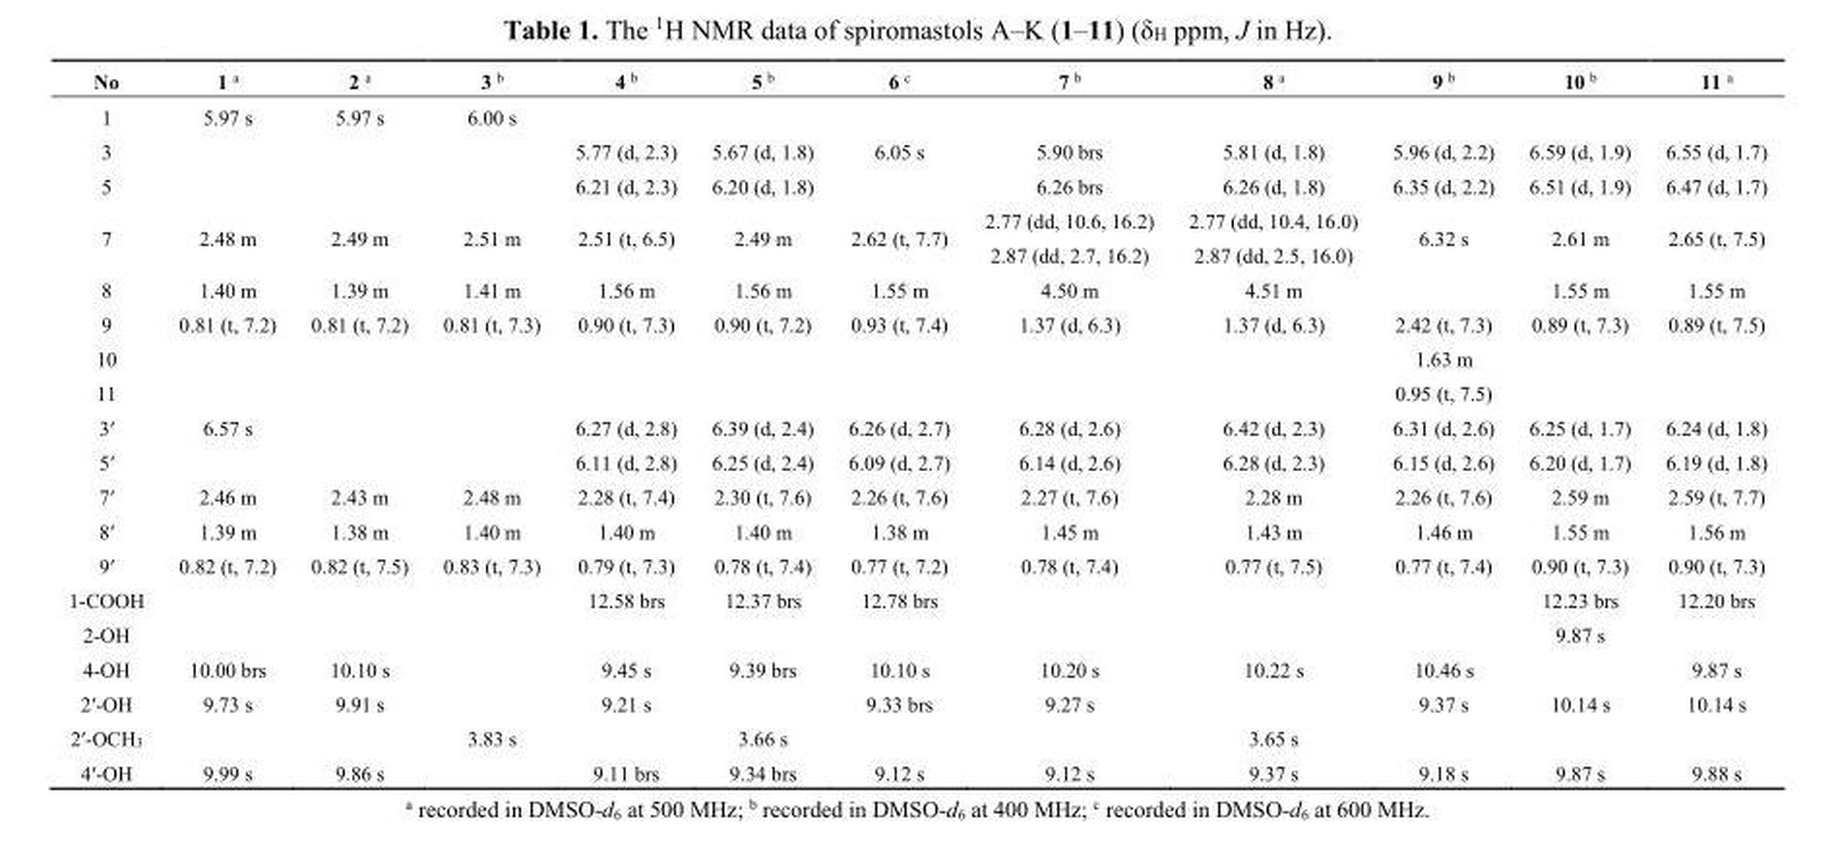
<table><thead><tr><td>No</td><td>1 <sup>a</sup></td><td>2 <sup>a</sup></td><td>3 <sup>b</sup></td><td>4 <sup>b</sup></td><td>5 <sup>b</sup></td><td>6 <sup>c</sup></td><td>7 <sup>b</sup></td><td>8 <sup>a</sup></td><td>9 <sup>b</sup></td><td>10 <sup>b</sup></td><td>11 <sup>a</sup></td></tr></thead><tbody><tr><td>1</td><td>5.97 s</td><td>5.97 s</td><td>6.00 s</td><td></td><td></td><td></td><td></td><td></td><td></td><td></td><td></td></tr><tr><td>3</td><td></td><td></td><td></td><td>5.77 (d, 2.3)</td><td>5.67 (d, 1.8)</td><td>6.05 s</td><td>5.90 brs</td><td>5.81 (d, 1.8)</td><td>5.96 (d, 2.2)</td><td>6.59 (d, 1.9)</td><td>6.55 (d, 1.7)</td></tr><tr><td>5</td><td></td><td></td><td></td><td>6.21 (d, 2.3)</td><td>6.20 (d, 1.8)</td><td></td><td>6.26 brs</td><td>6.26 (d, 1.8)</td><td>6.35 (d, 2.2)</td><td>6.51 (d, 1.9)</td><td>6.47 (d, 1.7)</td></tr><tr><td>7</td><td>2.48 m</td><td>2.49 m</td><td>2.51 m</td><td>2.51 (t, 6.5)</td><td>2.49 m</td><td>2.62 (t, 7.7)</td><td>2.77 (dd, 10.6, 16.2) 2.87 (dd, 2.7, 16.2)</td><td>2.77 (dd, 10.4, 16.0) 2.87 (dd, 2.5, 16.0)</td><td>6.32 s</td><td>2.61 m</td><td>2.65 (t, 7.5)</td></tr><tr><td>8</td><td>1.40 m</td><td>1.39 m</td><td>1.41 m</td><td>1.56 m</td><td>1.56 m</td><td>1.55 m</td><td>4.50 m</td><td>4.51 m</td><td></td><td>1.55 m</td><td>1.55 m</td></tr><tr><td>9</td><td>0.81 (t, 7.2)</td><td>0.81 (t, 7.2)</td><td>0.81 (t, 7.3)</td><td>0.90 (t, 7.3)</td><td>0.90 (t, 7.2)</td><td>0.93 (t, 7.4)</td><td>1.37 (d, 6.3)</td><td>1.37 (d, 6.3)</td><td>2.42 (t, 7.3)</td><td>0.89 (t, 7.3)</td><td>0.89 (t, 7.5)</td></tr><tr><td>10</td><td></td><td></td><td></td><td></td><td></td><td></td><td></td><td></td><td>1.63 m</td><td></td><td></td></tr><tr><td>11</td><td></td><td></td><td></td><td></td><td></td><td></td><td></td><td></td><td>0.95 (t, 7.5)</td><td></td><td></td></tr><tr><td>3′</td><td>6.57 s</td><td></td><td></td><td>6.27 (d, 2.8)</td><td>6.39 (d, 2.4)</td><td>6.26 (d, 2.7)</td><td>6.28 (d, 2.6)</td><td>6.42 (d, 2.3)</td><td>6.31 (d, 2.6)</td><td>6.25 (d, 1.7)</td><td>6.24 (d, 1.8)</td></tr><tr><td>5′</td><td></td><td></td><td></td><td>6.11 (d, 2.8)</td><td>6.25 (d, 2.4)</td><td>6.09 (d, 2.7)</td><td>6.14 (d, 2.6)</td><td>6.28 (d, 2.3)</td><td>6.15 (d, 2.6)</td><td>6.20 (d, 1.7)</td><td>6.19 (d, 1.8)</td></tr><tr><td>7′</td><td>2.46 m</td><td>2.43 m</td><td>2.48 m</td><td>2.28 (t, 7.4)</td><td>2.30 (t, 7.6)</td><td>2.26 (t, 7.6)</td><td>2.27 (t, 7.6)</td><td>2.28 m</td><td>2.26 (t, 7.6)</td><td>2.59 m</td><td>2.59 (t, 7.7)</td></tr><tr><td>8′</td><td>1.39 m</td><td>1.38 m</td><td>1.40 m</td><td>1.40 m</td><td>1.40 m</td><td>1.38 m</td><td>1.45 m</td><td>1.43 m</td><td>1.46 m</td><td>1.55 m</td><td>1.56 m</td></tr><tr><td>9′</td><td>0.82 (t, 7.2)</td><td>0.82 (t, 7.5)</td><td>0.83 (t, 7.3)</td><td>0.79 (t, 7.3)</td><td>0.78 (t, 7.4)</td><td>0.77 (t, 7.2)</td><td>0.78 (t, 7.4)</td><td>0.77 (t, 7.5)</td><td>0.77 (t, 7.4)</td><td>0.90 (t, 7.3)</td><td>0.90 (t, 7.3)</td></tr><tr><td>1-COOH</td><td></td><td></td><td></td><td>12.58 brs</td><td>12.37 brs</td><td>12.78 brs</td><td></td><td></td><td></td><td>12.23 brs</td><td>12.20 brs</td></tr><tr><td>2-OH</td><td></td><td></td><td></td><td></td><td></td><td></td><td></td><td></td><td></td><td>9.87 s</td><td></td></tr><tr><td>4-OH</td><td>10.00 brs</td><td>10.10 s</td><td></td><td>9.45 s</td><td>9.39 brs</td><td>10.10 s</td><td>10.20 s</td><td>10.22 s</td><td>10.46 s</td><td></td><td>9.87 s</td></tr><tr><td>2′-OH</td><td>9.73 s</td><td>9.91 s</td><td></td><td>9.21 s</td><td></td><td>9.33 brs</td><td>9.27 s</td><td></td><td>9.37 s</td><td>10.14 s</td><td>10.14 s</td></tr><tr><td>2′-OCH<sub>3</sub></td><td></td><td></td><td>3.83 s</td><td></td><td>3.66 s</td><td></td><td></td><td>3.65 s</td><td></td><td></td><td></td></tr><tr><td>4′-OH</td><td>9.99 s</td><td>9.86 s</td><td></td><td>9.11 brs</td><td>9.34 brs</td><td>9.12 s</td><td>9.12 s</td><td>9.37 s</td><td>9.18 s</td><td>9.87 s</td><td>9.88 s</td></tr></tbody></table>